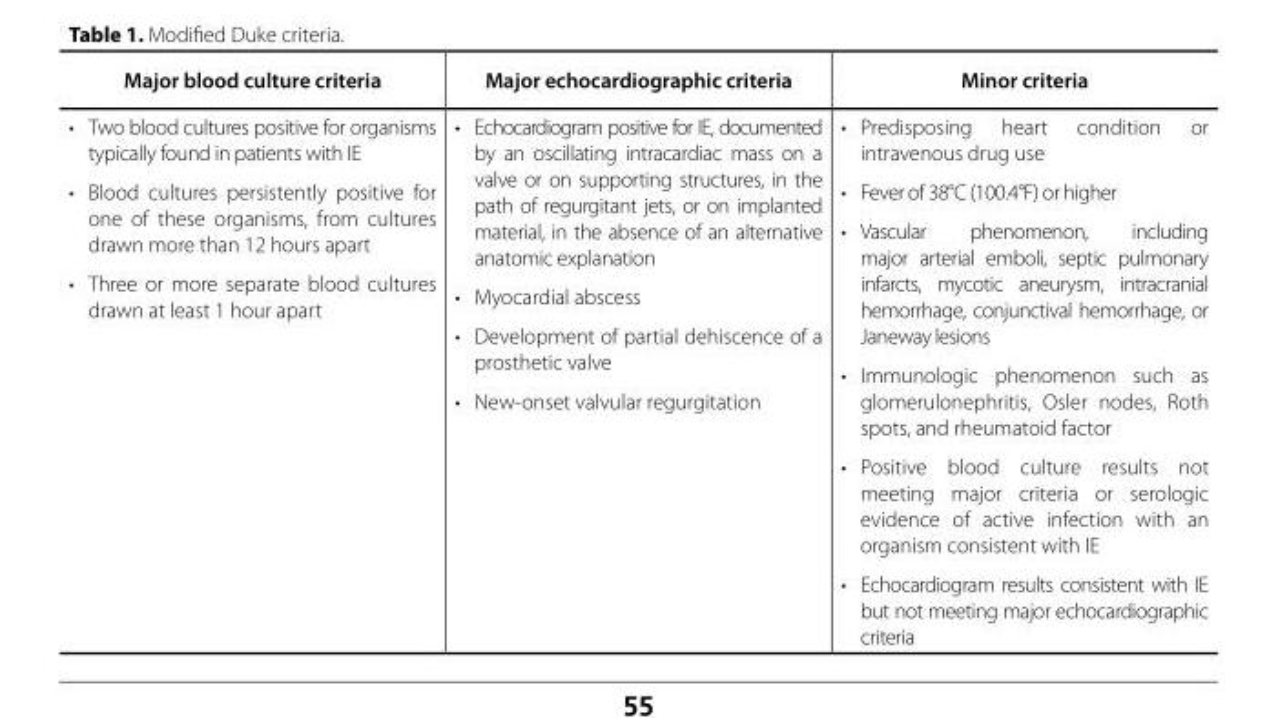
<table><thead><tr><td>Major blood culture criteria</td><td>Major echocardiographic criteria</td><td>Minor criteria</td></tr></thead><tbody><tr><td>• Two blood cultures positive for organisms typically found in patients with IE • Blood cultures persistently positive for one of these organisms, from cultures drawn more than 12 hours apart • Three or more separate blood cultures drawn at least 1 hour apart</td><td>• Echocardiogram positive for IE, documented by an oscillating intracardiac mass on a valve or on supporting structures, in the path of regurgitant jets, or on implanted material, in the absence of an alternative anatomic explanation • Myocardial abscess • Development of partial dehiscence of a prosthetic valve • New-onset valvular regurgitation</td><td>• Predisposing heart condition or intravenous drug use • Fever of 38°C (100.4°F) or higher • Vascular phenomenon, including major arterial emboli, septic pulmonary infarcts, mycotic aneurysm, intracranial hemorrhage, conjunctival hemorrhage, or Janeway lesions • Immunologic phenomenon such as glomerulonephritis, Osler nodes, Roth spots, and rheumatoid factor • Positive blood culture results not meeting major criteria or serologic evidence of active infection with an organism consistent with IE • Echocardiogram results consistent with IE but not meeting major echocardiographic criteria</td></tr></tbody></table>